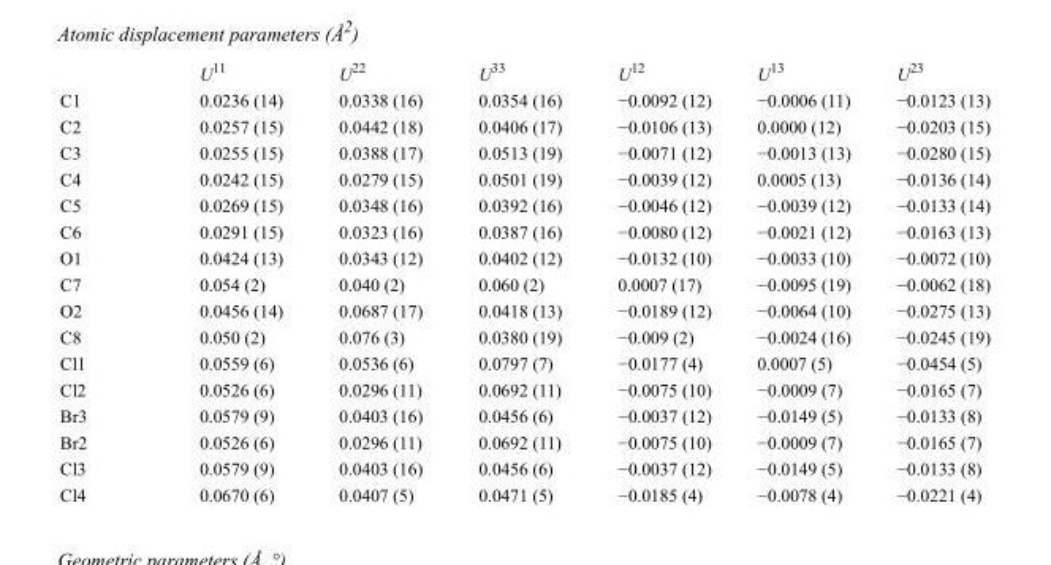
<table><thead><tr><td></td><td>U<sup>11</sup></td><td>U<sup>22</sup></td><td>U<sup>33</sup></td><td>U<sup>12</sup></td><td>U<sup>13</sup></td><td>U<sup>23</sup></td></tr></thead><tbody><tr><td>C1</td><td>0.0236 (14)</td><td>0.0338 (16)</td><td>0.0354 (16)</td><td>−0.0092 (12)</td><td>−0.0006 (11)</td><td>−0.0123 (13)</td></tr><tr><td>C2</td><td>0.0257 (15)</td><td>0.0442 (18)</td><td>0.0406 (17)</td><td>−0.0106 (13)</td><td>0.0000 (12)</td><td>−0.0203 (15)</td></tr><tr><td>C3</td><td>0.0255 (15)</td><td>0.0388 (17)</td><td>0.0513 (19)</td><td>−0.0071 (12)</td><td>−0.0013 (13)</td><td>−0.0280 (15)</td></tr><tr><td>C4</td><td>0.0242 (15)</td><td>0.0279 (15)</td><td>0.0501 (19)</td><td>−0.0039 (12)</td><td>0.0005 (13)</td><td>−0.0136 (14)</td></tr><tr><td>C5</td><td>0.0269 (15)</td><td>0.0348 (16)</td><td>0.0392 (16)</td><td>−0.0046 (12)</td><td>−0.0039 (12)</td><td>−0.0133 (14)</td></tr><tr><td>C6</td><td>0.0291 (15)</td><td>0.0323 (16)</td><td>0.0387 (16)</td><td>−0.0080 (12)</td><td>−0.0021 (12)</td><td>−0.0163 (13)</td></tr><tr><td>O1</td><td>0.0424 (13)</td><td>0.0343 (12)</td><td>0.0402 (12)</td><td>−0.0132 (10)</td><td>−0.0033 (10)</td><td>−0.0072 (10)</td></tr><tr><td>C7</td><td>0.054 (2)</td><td>0.040 (2)</td><td>0.060 (2)</td><td>0.0007 (17)</td><td>−0.0095 (19)</td><td>−0.0062 (18)</td></tr><tr><td>O2</td><td>0.0456 (14)</td><td>0.0687 (17)</td><td>0.0418 (13)</td><td>−0.0189 (12)</td><td>−0.0064 (10)</td><td>−0.0275 (13)</td></tr><tr><td>C8</td><td>0.050 (2)</td><td>0.076 (3)</td><td>0.0380 (19)</td><td>−0.009 (2)</td><td>−0.0024 (16)</td><td>−0.0245 (19)</td></tr><tr><td>Cl1</td><td>0.0559 (6)</td><td>0.0536 (6)</td><td>0.0797 (7)</td><td>−0.0177 (4)</td><td>0.0007 (5)</td><td>−0.0454 (5)</td></tr><tr><td>Cl2</td><td>0.0526 (6)</td><td>0.0296 (11)</td><td>0.0692 (11)</td><td>−0.0075 (10)</td><td>−0.0009 (7)</td><td>−0.0165 (7)</td></tr><tr><td>Br3</td><td>0.0579 (9)</td><td>0.0403 (16)</td><td>0.0456 (6)</td><td>−0.0037 (12)</td><td>−0.0149 (5)</td><td>−0.0133 (8)</td></tr><tr><td>Br2</td><td>0.0526 (6)</td><td>0.0296 (11)</td><td>0.0692 (11)</td><td>−0.0075 (10)</td><td>−0.0009 (7)</td><td>−0.0165 (7)</td></tr><tr><td>Cl3</td><td>0.0579 (9)</td><td>0.0403 (16)</td><td>0.0456 (6)</td><td>−0.0037 (12)</td><td>−0.0149 (5)</td><td>−0.0133 (8)</td></tr><tr><td>Cl4</td><td>0.0670 (6)</td><td>0.0407 (5)</td><td>0.0471 (5)</td><td>−0.0185 (4)</td><td>−0.0078 (4)</td><td>−0.0221 (4)</td></tr></tbody></table>